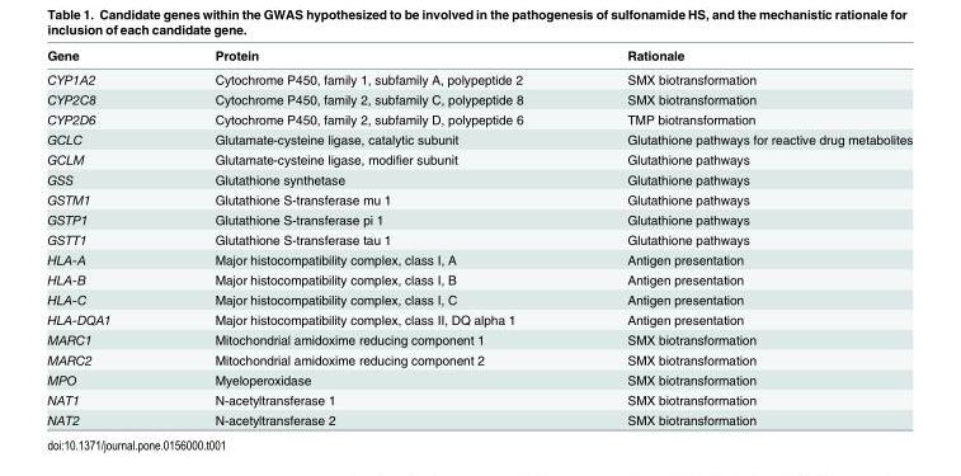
<table><thead><tr><td>Gene</td><td>Protein</td><td>Rationale</td></tr></thead><tbody><tr><td>CYP1A2</td><td>Cytochrome P450, family 1, subfamily A, polypeptide 2</td><td>SMX biotransformation</td></tr><tr><td>CYP2C8</td><td>Cytochrome P450, family 2, subfamily C, polypeptide 8</td><td>SMX biotransformation</td></tr><tr><td>CYP2D6</td><td>Cytochrome P450, family 2, subfamily D, polypeptide 6</td><td>TMP biotransformation</td></tr><tr><td>GCLC</td><td>Glutamate-cysteine ligase, catalytic subunit</td><td>Glutathione pathways for reactive drug metabolites</td></tr><tr><td>GCLM</td><td>Glutamate-cysteine ligase, modifier subunit</td><td>Glutathione pathways</td></tr><tr><td>GSS</td><td>Glutathione synthetase</td><td>Glutathione pathways</td></tr><tr><td>GSTM1</td><td>Glutathione S-transferase mu 1</td><td>Glutathione pathways</td></tr><tr><td>GSTP1</td><td>Glutathione S-transferase pi 1</td><td>Glutathione pathways</td></tr><tr><td>GSTT1</td><td>Glutathione S-transferase tau 1</td><td>Glutathione pathways</td></tr><tr><td>HLA-A</td><td>Major histocompatibility complex, class I, A</td><td>Antigen presentation</td></tr><tr><td>HLA-B</td><td>Major histocompatibility complex, class I, B</td><td>Antigen presentation</td></tr><tr><td>HLA-C</td><td>Major histocompatibility complex, class I, C</td><td>Antigen presentation</td></tr><tr><td>HLA-DQA1</td><td>Major histocompatibility complex, class II, DQ alpha 1</td><td>Antigen presentation</td></tr><tr><td>MARC1</td><td>Mitochondrial amidoxime reducing component 1</td><td>SMX biotransformation</td></tr><tr><td>MARC2</td><td>Mitochondrial amidoxime reducing component 2</td><td>SMX biotransformation</td></tr><tr><td>MPO</td><td>Myeloperoxidase</td><td>SMX biotransformation</td></tr><tr><td>NAT1</td><td>N-acetyltransferase 1</td><td>SMX biotransformation</td></tr><tr><td>NAT2</td><td>N-acetyltransferase 2</td><td>SMX biotransformation</td></tr></tbody></table>